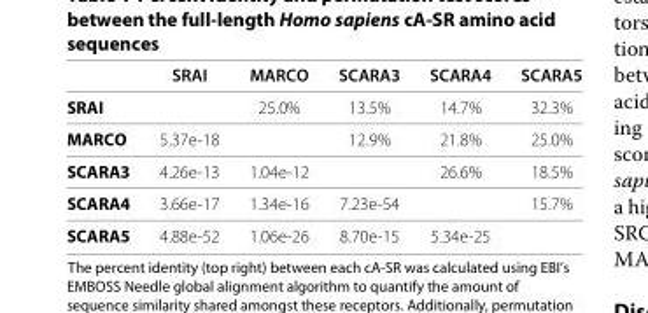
<table><thead><tr><td></td><td>SRAI</td><td>MARCO</td><td>SCARA3</td><td>SCARA4</td><td>SCARA5</td></tr></thead><tbody><tr><td>SRAI</td><td></td><td>25.0%</td><td>13.5%</td><td>14.7%</td><td>32.3%</td></tr><tr><td>MARCO</td><td>5.37e-18</td><td></td><td>12.9%</td><td>21.8%</td><td>25.0%</td></tr><tr><td>SCARA3</td><td>4.26e-13</td><td>1.04e-12</td><td></td><td>26.6%</td><td>18.5%</td></tr><tr><td>SCARA4</td><td>3.66e-17</td><td>1.34e-16</td><td>7.23e-54</td><td></td><td>15.7%</td></tr><tr><td>SCARA5</td><td>4.88e-52</td><td>1.06e-26</td><td>8.70e-15</td><td>5.34e-25</td><td></td></tr></tbody></table>